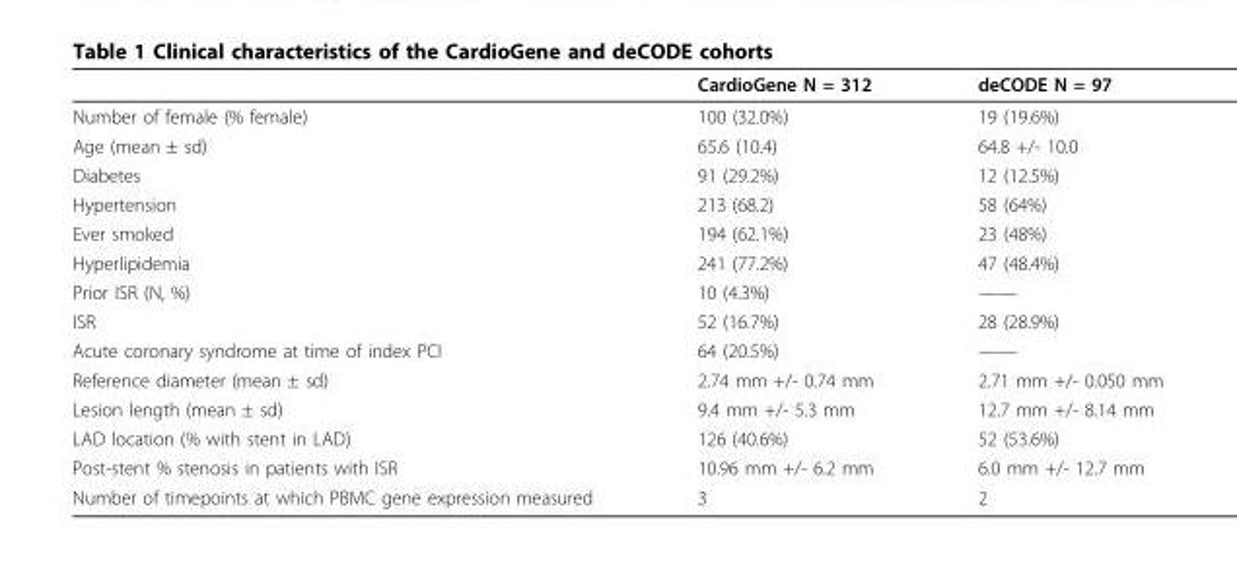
<table><thead><tr><td></td><td>CardioGene N = 312</td><td>deCODE N = 97</td></tr></thead><tbody><tr><td>Number of female (% female)</td><td>100 (32.0%)</td><td>19 (19.6%)</td></tr><tr><td>Age (mean ± sd)</td><td>65.6 (10.4)</td><td>64.8 +/- 10.0</td></tr><tr><td>Diabetes</td><td>91 (29.2%)</td><td>12 (12.5%)</td></tr><tr><td>Hypertension</td><td>213 (68.2)</td><td>58 (64%)</td></tr><tr><td>Ever smoked</td><td>194 (62.1%)</td><td>23 (48%)</td></tr><tr><td>Hyperlipidemia</td><td>241 (77.2%)</td><td>47 (48.4%)</td></tr><tr><td>Prior ISR (N, %)</td><td>10 (4.3%)</td><td>——</td></tr><tr><td>ISR</td><td>52 (16.7%)</td><td>28 (28.9%)</td></tr><tr><td>Acute coronary syndrome at time of index PCI</td><td>64 (20.5%)</td><td>——</td></tr><tr><td>Reference diameter (mean ± sd)</td><td>2.74 mm +/- 0.74 mm</td><td>2.71 mm +/- 0.050 mm</td></tr><tr><td>Lesion length (mean ± sd)</td><td>9.4 mm +/- 5.3 mm</td><td>12.7 mm +/- 8.14 mm</td></tr><tr><td>LAD location (% with stent in LAD)</td><td>126 (40.6%)</td><td>52 (53.6%)</td></tr><tr><td>Post-stent % stenosis in patients with ISR</td><td>10.96 mm +/- 6.2 mm</td><td>6.0 mm +/- 12.7 mm</td></tr><tr><td>Number of timepoints at which PBMC gene expression measured</td><td>3</td><td>2</td></tr></tbody></table>